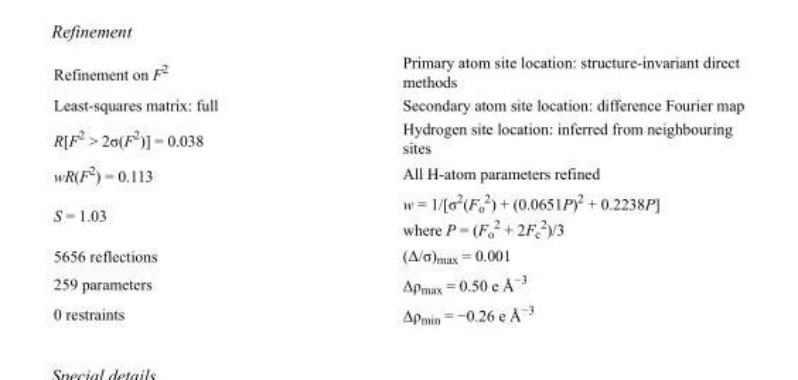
<table><tbody><tr><td>Refinement on F<sup>2</sup></td><td>Primary atom site location: structure-invariant direct methods</td></tr><tr><td>Least-squares matrix: full</td><td>Secondary atom site location: difference Fourier map</td></tr><tr><td>R[F<sup>2</sup> &gt; 2σ(F<sup>2</sup>)] = 0.038</td><td>Hydrogen site location: inferred from neighbouring sites</td></tr><tr><td>wR(F<sup>2</sup>) = 0.113</td><td>All H-atom parameters refined</td></tr><tr><td>S = 1.03</td><td>w = 1/[σ<sup>2</sup>(F<sub>o</sub> <sup>2</sup>) + (0.0651P)<sup>2</sup> + 0.2238P] where P = (F<sub>o</sub> <sup>2</sup> + 2F<sub>c</sub> <sup>2</sup>)/3</td></tr><tr><td>5656 reflections</td><td>(Δ/σ)<sub>max</sub> = 0.001</td></tr><tr><td>259 parameters</td><td>Δρ<sub>max</sub> = 0.50 e Å<sup>−3</sup></td></tr><tr><td>0 restraints</td><td>Δρ<sub>min</sub> = −0.26 e Å<sup>−3</sup></td></tr></tbody></table>